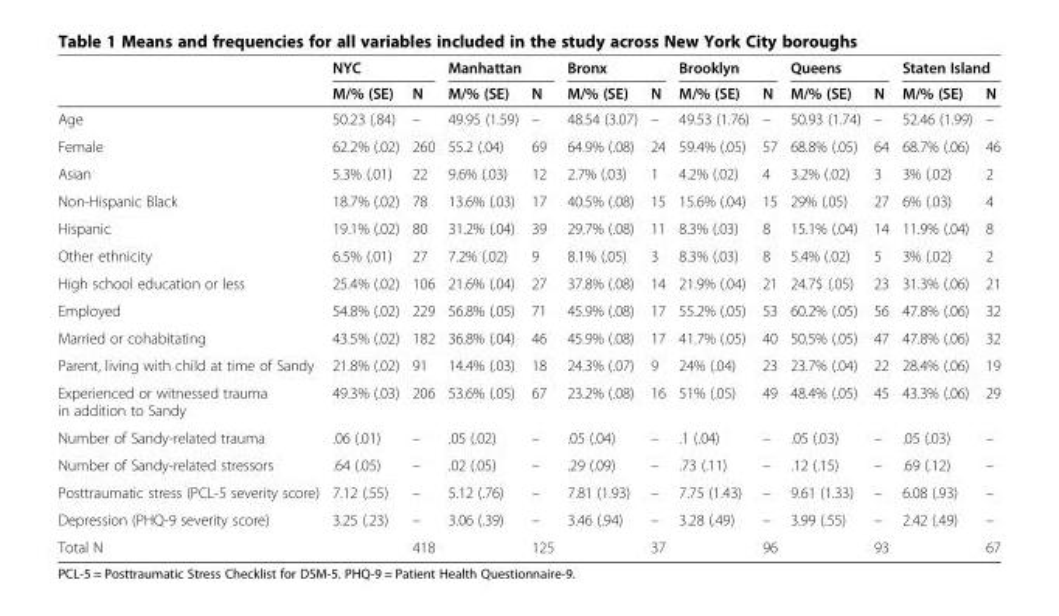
<table><thead><tr><td rowspan="2"></td><td colspan="2">NYC</td><td colspan="2">Manhattan</td><td colspan="2">Bronx</td><td colspan="2">Brooklyn</td><td colspan="2">Queens</td><td colspan="2">Staten Island</td></tr><tr><td>M/% (SE)</td><td>N</td><td>M/% (SE)</td><td>N</td><td>M/% (SE)</td><td>N</td><td>M/% (SE)</td><td>N</td><td>M/% (SE)</td><td>N</td><td>M/% (SE)</td><td>N</td></tr></thead><tbody><tr><td>Age</td><td>50.23 (.84)</td><td>–</td><td>49.95 (1.59)</td><td>–</td><td>48.54 (3.07)</td><td>–</td><td>49.53 (1.76)</td><td>–</td><td>50.93 (1.74)</td><td>–</td><td>52.46 (1.99)</td><td>–</td></tr><tr><td>Female</td><td>62.2% (.02)</td><td>260</td><td>55.2 (.04)</td><td>69</td><td>64.9% (.08)</td><td>24</td><td>59.4% (.05)</td><td>57</td><td>68.8% (.05)</td><td>64</td><td>68.7% (.06)</td><td>46</td></tr><tr><td>Asian</td><td>5.3% (.01)</td><td>22</td><td>9.6% (.03)</td><td>12</td><td>2.7% (.03)</td><td>1</td><td>4.2% (.02)</td><td>4</td><td>3.2% (.02)</td><td>3</td><td>3% (.02)</td><td>2</td></tr><tr><td>Non-Hispanic Black</td><td>18.7% (.02)</td><td>78</td><td>13.6% (.03)</td><td>17</td><td>40.5% (.08)</td><td>15</td><td>15.6% (.04)</td><td>15</td><td>29% (.05)</td><td>27</td><td>6% (.03)</td><td>4</td></tr><tr><td>Hispanic</td><td>19.1% (.02)</td><td>80</td><td>31.2% (.04)</td><td>39</td><td>29.7% (.08)</td><td>11</td><td>8.3% (.03)</td><td>8</td><td>15.1% (.04)</td><td>14</td><td>11.9% (.04)</td><td>8</td></tr><tr><td>Other ethnicity</td><td>6.5% (.01)</td><td>27</td><td>7.2% (.02)</td><td>9</td><td>8.1% (.05)</td><td>3</td><td>8.3% (.03)</td><td>8</td><td>5.4% (.02)</td><td>5</td><td>3% (.02)</td><td>2</td></tr><tr><td>High school education or less</td><td>25.4% (.02)</td><td>106</td><td>21.6% (.04)</td><td>27</td><td>37.8% (.08)</td><td>14</td><td>21.9% (.04)</td><td>21</td><td>24.7$ (.05)</td><td>23</td><td>31.3% (.06)</td><td>21</td></tr><tr><td>Employed</td><td>54.8% (.02)</td><td>229</td><td>56.8% (.05)</td><td>71</td><td>45.9% (.08)</td><td>17</td><td>55.2% (.05)</td><td>53</td><td>60.2% (.05)</td><td>56</td><td>47.8% (.06)</td><td>32</td></tr><tr><td>Married or cohabitating</td><td>43.5% (.02)</td><td>182</td><td>36.8% (.04)</td><td>46</td><td>45.9% (.08)</td><td>17</td><td>41.7% (.05)</td><td>40</td><td>50.5% (.05)</td><td>47</td><td>47.8% (.06)</td><td>32</td></tr><tr><td>Parent, living with child at time of Sandy</td><td>21.8% (.02)</td><td>91</td><td>14.4% (.03)</td><td>18</td><td>24.3% (.07)</td><td>9</td><td>24% (.04)</td><td>23</td><td>23.7% (.04)</td><td>22</td><td>28.4% (.06)</td><td>19</td></tr><tr><td>Experienced or witnessed trauma in addition to Sandy</td><td>49.3% (.03)</td><td>206</td><td>53.6% (.05)</td><td>67</td><td>23.2% (.08)</td><td>16</td><td>51% (.05)</td><td>49</td><td>48.4% (.05)</td><td>45</td><td>43.3% (.06)</td><td>29</td></tr><tr><td>Number of Sandy-related trauma</td><td>.06 (.01)</td><td>–</td><td>.05 (.02)</td><td>–</td><td>.05 (.04)</td><td>–</td><td>.1 (.04)</td><td>–</td><td>.05 (.03)</td><td>–</td><td>.05 (.03)</td><td>–</td></tr><tr><td>Number of Sandy-related stressors</td><td>.64 (.05)</td><td>–</td><td>.02 (.05)</td><td>–</td><td>.29 (.09)</td><td>–</td><td>.73 (.11)</td><td>–</td><td>.12 (.15)</td><td>–</td><td>.69 (.12)</td><td>–</td></tr><tr><td>Posttraumatic stress (PCL-5 severity score)</td><td>7.12 (.55)</td><td>–</td><td>5.12 (.76)</td><td>–</td><td>7.81 (1.93)</td><td>–</td><td>7.75 (1.43)</td><td>–</td><td>9.61 (1.33)</td><td>–</td><td>6.08 (.93)</td><td>–</td></tr><tr><td>Depression (PHQ-9 severity score)</td><td>3.25 (.23)</td><td>–</td><td>3.06 (.39)</td><td>–</td><td>3.46 (.94)</td><td>–</td><td>3.28 (.49)</td><td>–</td><td>3.99 (.55)</td><td>–</td><td>2.42 (.49)</td><td>–</td></tr><tr><td>Total N</td><td></td><td>418</td><td></td><td>125</td><td></td><td>37</td><td></td><td>96</td><td></td><td>93</td><td></td><td>67</td></tr></tbody></table>